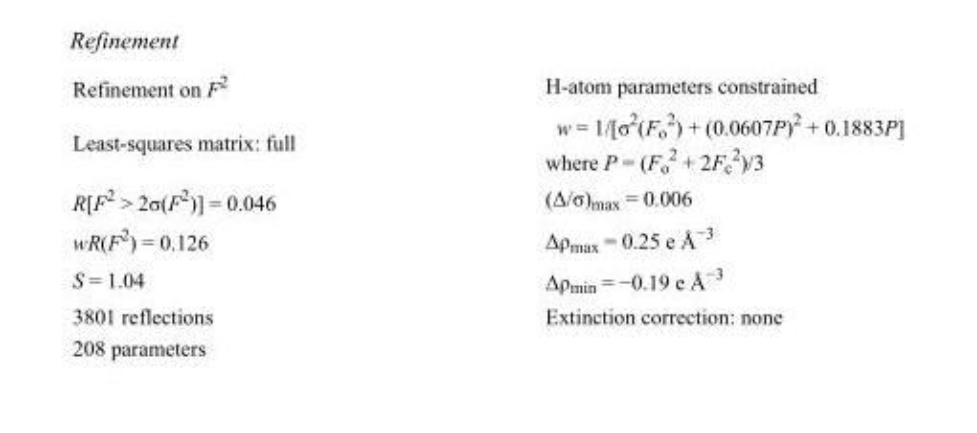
<table><tbody><tr><td>Refinement on F<sup>2</sup></td><td>H-atom parameters constrained</td></tr><tr><td>Least-squares matrix: full</td><td>w = 1/[σ<sup>2</sup>(F<sub>o</sub> <sup>2</sup>) + (0.0607P)<sup>2</sup> + 0.1883P] where P = (F<sub>o</sub> <sup>2</sup> + 2F<sub>c</sub> <sup>2</sup>)/3</td></tr><tr><td>R[F<sup>2</sup> &gt; 2σ(F<sup>2</sup>)] = 0.046</td><td>(Δ/σ)<sub>max</sub> = 0.006</td></tr><tr><td>wR(F<sup>2</sup>) = 0.126</td><td>Δρ<sub>max</sub> = 0.25 e Å<sup>−3</sup></td></tr><tr><td>S = 1.04</td><td>Δρ<sub>min</sub> = −0.19 e Å<sup>−3</sup></td></tr><tr><td>3801 reflections</td><td>Extinction correction: none</td></tr><tr><td>208 parameters</td><td></td></tr></tbody></table>